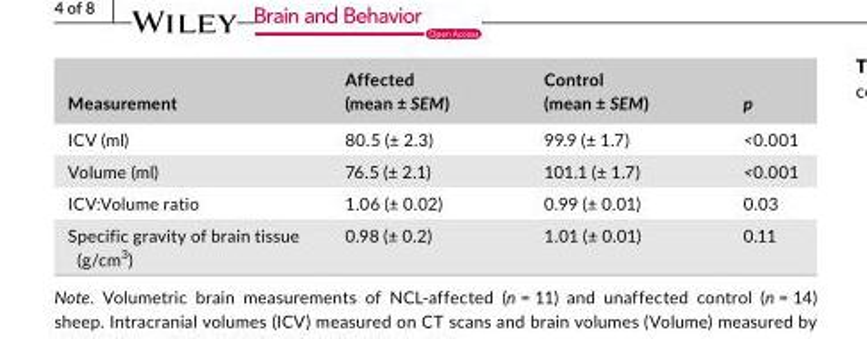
<table><thead><tr><td>Measurement</td><td>Affected (mean ± SEM)</td><td>Control (mean ± SEM)</td><td>p</td></tr></thead><tbody><tr><td>ICV (ml)</td><td>80.5 (± 2.3)</td><td>99.9 (± 1.7)</td><td>&lt;0.001</td></tr><tr><td>Volume (ml)</td><td>76.5 (± 2.1)</td><td>101.1 (± 1.7)</td><td>&lt;0.001</td></tr><tr><td>ICV:Volume ratio</td><td>1.06 (± 0.02)</td><td>0.99 (± 0.01)</td><td>0.03</td></tr><tr><td>Specific gravity of brain tissue (g/cm<sup>3</sup>)</td><td>0.98 (± 0.2)</td><td>1.01 (± 0.01)</td><td>0.11</td></tr></tbody></table>